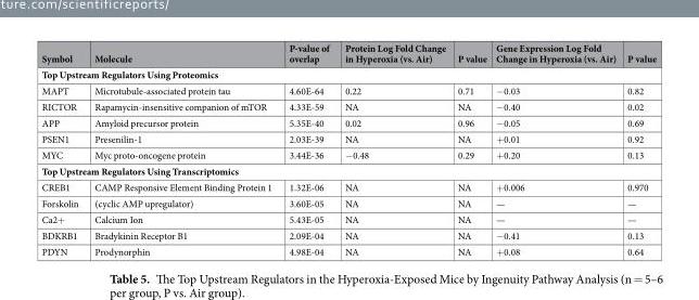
<table><thead><tr><td>Symbol</td><td>Molecule</td><td>P-value of overlap</td><td>Protein Log Fold Change in Hyperoxia (vs. Air)</td><td>P value</td><td>Gene Expression Log Fold Change in Hyperoxia (vs. Air)</td><td>P value</td></tr></thead><tbody><tr><td colspan="7">Top Upstream Regulators Using Proteomics</td></tr><tr><td>MAPT</td><td>Microtubule-associated protein tau</td><td>4.60E-64</td><td>0.22</td><td>0.71</td><td>−0.03</td><td>0.82</td></tr><tr><td>RICTOR</td><td>Rapamycin-insensitive companion of mTOR</td><td>4.33E-59</td><td>NA</td><td>NA</td><td>−0.40</td><td>0.02</td></tr><tr><td>APP</td><td>Amyloid precursor protein</td><td>5.35E-40</td><td>0.02</td><td>0.96</td><td>−0.05</td><td>0.69</td></tr><tr><td>PSEN1</td><td>Presenilin-1</td><td>2.03E-39</td><td>NA</td><td>NA</td><td>+0.01</td><td>0.92</td></tr><tr><td>MYC</td><td>Myc proto-oncogene protein</td><td>3.44E-36</td><td>−0.48</td><td>0.29</td><td>+0.20</td><td>0.13</td></tr><tr><td colspan="7">Top Upstream Regulators Using Transcriptomics</td></tr><tr><td>CREB1</td><td>CAMP Responsive Element Binding Protein 1</td><td>1.32E-06</td><td>NA</td><td>NA</td><td>+0.006</td><td>0.970</td></tr><tr><td>Forskolin</td><td>(cyclic AMP upregulator)</td><td>3.60E-05</td><td>NA</td><td>NA</td><td>—</td><td>—</td></tr><tr><td>Ca2+</td><td>Calcium Ion</td><td>5.43E-05</td><td>NA</td><td>NA</td><td>—</td><td>—</td></tr><tr><td>BDKRB1</td><td>Bradykinin Receptor B1</td><td>2.09E-04</td><td>NA</td><td>NA</td><td>−0.41</td><td>0.13</td></tr><tr><td>PDYN</td><td>Prodynorphin</td><td>4.98E-04</td><td>NA</td><td>NA</td><td>+0.08</td><td>0.64</td></tr></tbody></table>